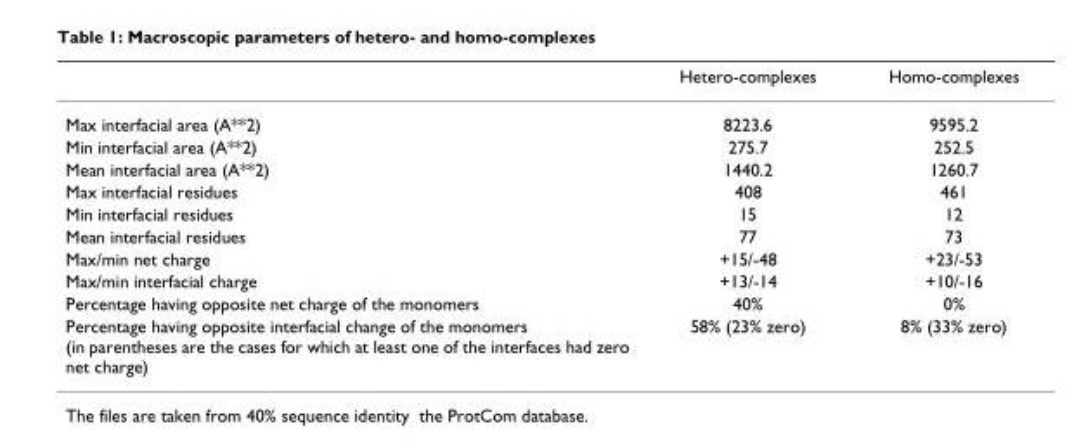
<table><thead><tr><td></td><td>Hetero-complexes</td><td>Homo-complexes</td></tr></thead><tbody><tr><td>Max interfacial area (A**2)</td><td>8223.6</td><td>9595.2</td></tr><tr><td>Min interfacial area (A**2)</td><td>275.7</td><td>252.5</td></tr><tr><td>Mean interfacial area (A**2)</td><td>1440.2</td><td>1260.7</td></tr><tr><td>Max interfacial residues</td><td>408</td><td>461</td></tr><tr><td>Min interfacial residues</td><td>15</td><td>12</td></tr><tr><td>Mean interfacial residues</td><td>77</td><td>73</td></tr><tr><td>Max/min net charge</td><td>+15/-48</td><td>+23/-53</td></tr><tr><td>Max/min interfacial charge</td><td>+13/-14</td><td>+10/-16</td></tr><tr><td>Percentage having opposite net charge of the monomers</td><td>40%</td><td>0%</td></tr><tr><td>Percentage having opposite interfacial change of the monomers (in parentheses are the cases for which at least one of the interfaces had zero net charge)</td><td>58% (23% zero)</td><td>8% (33% zero)</td></tr></tbody></table>